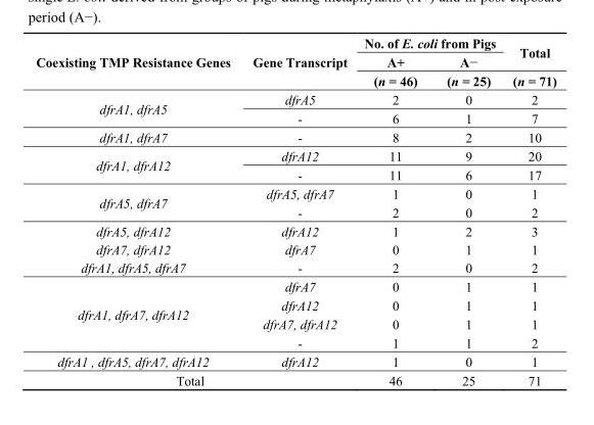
<table><thead><tr><td rowspan="3">Coexisting TMP Resistance Genes</td><td rowspan="3">Gene Transcript</td><td colspan="2">No. of E. coli from Pigs</td><td rowspan="3">Total (n = 71)</td></tr><tr><td rowspan="2">A+ (n = 46)</td><td rowspan="2">A− (n = 25)</td></tr><tr></tr></thead><tbody><tr><td rowspan="2">dfrA1, dfrA5</td><td>dfrA5</td><td>2</td><td>0</td><td>2</td></tr><tr><td>-</td><td>6</td><td>1</td><td>7</td></tr><tr><td>dfrA1, dfrA7</td><td>-</td><td>8</td><td>2</td><td>10</td></tr><tr><td rowspan="2">dfrA1, dfrA12</td><td>dfrA12</td><td>11</td><td>9</td><td>20</td></tr><tr><td>-</td><td>11</td><td>6</td><td>17</td></tr><tr><td rowspan="2">dfrA5, dfrA7</td><td>dfrA5, dfrA7</td><td>1</td><td>0</td><td>1</td></tr><tr><td>-</td><td>2</td><td>0</td><td>2</td></tr><tr><td>dfrA5, dfrA12</td><td>dfrA12</td><td>1</td><td>2</td><td>3</td></tr><tr><td>dfrA7, dfrA12</td><td>dfrA7</td><td>0</td><td>1</td><td>1</td></tr><tr><td>dfrA1, dfrA5, dfrA7</td><td>-</td><td>2</td><td>0</td><td>2</td></tr><tr><td rowspan="4">dfrA1, dfrA7, dfrA12</td><td>dfrA7</td><td>0</td><td>1</td><td>1</td></tr><tr><td>dfrA12</td><td>0</td><td>1</td><td>1</td></tr><tr><td>dfrA7, dfrA12</td><td>0</td><td>1</td><td>1</td></tr><tr><td>-</td><td>1</td><td>1</td><td>2</td></tr><tr><td>dfrA1 , dfrA5, dfrA7, dfrA12</td><td>dfrA12</td><td>1</td><td>0</td><td>1</td></tr><tr><td colspan="2">Total</td><td>46</td><td>25</td><td>71</td></tr></tbody></table>